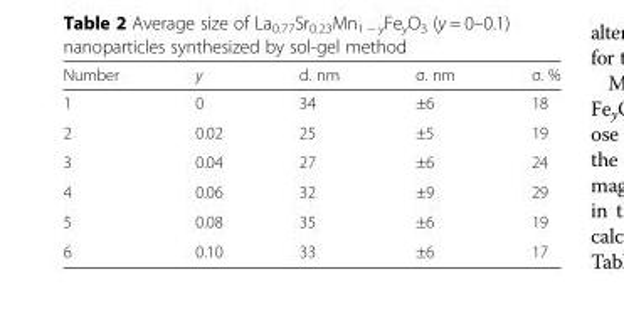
<table><thead><tr><td>Number</td><td>y</td><td>d. nm</td><td>σ. nm</td><td>σ. %</td></tr></thead><tbody><tr><td>1</td><td>0</td><td>34</td><td>±6</td><td>18</td></tr><tr><td>2</td><td>0.02</td><td>25</td><td>±5</td><td>19</td></tr><tr><td>3</td><td>0.04</td><td>27</td><td>±6</td><td>24</td></tr><tr><td>4</td><td>0.06</td><td>32</td><td>±9</td><td>29</td></tr><tr><td>5</td><td>0.08</td><td>35</td><td>±6</td><td>19</td></tr><tr><td>6</td><td>0.10</td><td>33</td><td>±6</td><td>17</td></tr></tbody></table>